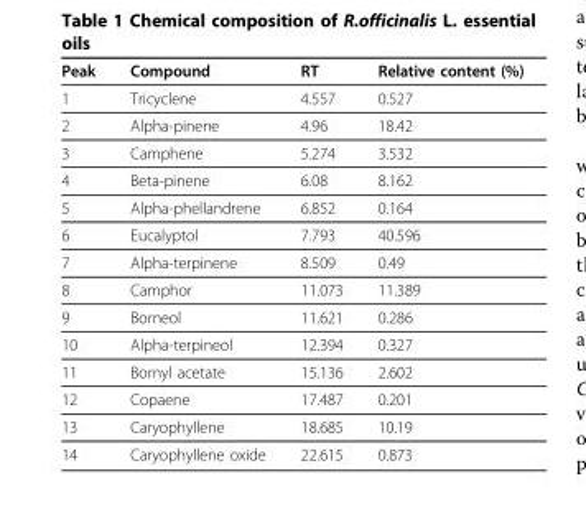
<table><thead><tr><td>Peak</td><td>Compound</td><td>RT</td><td>Relative content (%)</td></tr></thead><tbody><tr><td>1</td><td>Tricyclene</td><td>4.557</td><td>0.527</td></tr><tr><td>2</td><td>Alpha-pinene</td><td>4.96</td><td>18.42</td></tr><tr><td>3</td><td>Camphene</td><td>5.274</td><td>3.532</td></tr><tr><td>4</td><td>Beta-pinene</td><td>6.08</td><td>8.162</td></tr><tr><td>5</td><td>Alpha-phellandrene</td><td>6.852</td><td>0.164</td></tr><tr><td>6</td><td>Eucalyptol</td><td>7.793</td><td>40.596</td></tr><tr><td>7</td><td>Alpha-terpinene</td><td>8.509</td><td>0.49</td></tr><tr><td>8</td><td>Camphor</td><td>11.073</td><td>11.389</td></tr><tr><td>9</td><td>Borneol</td><td>11.621</td><td>0.286</td></tr><tr><td>10</td><td>Alpha-terpineol</td><td>12.394</td><td>0.327</td></tr><tr><td>11</td><td>Bornyl acetate</td><td>15.136</td><td>2.602</td></tr><tr><td>12</td><td>Copaene</td><td>17.487</td><td>0.201</td></tr><tr><td>13</td><td>Caryophyllene</td><td>18.685</td><td>10.19</td></tr><tr><td>14</td><td>Caryophyllene oxide</td><td>22.615</td><td>0.873</td></tr></tbody></table>